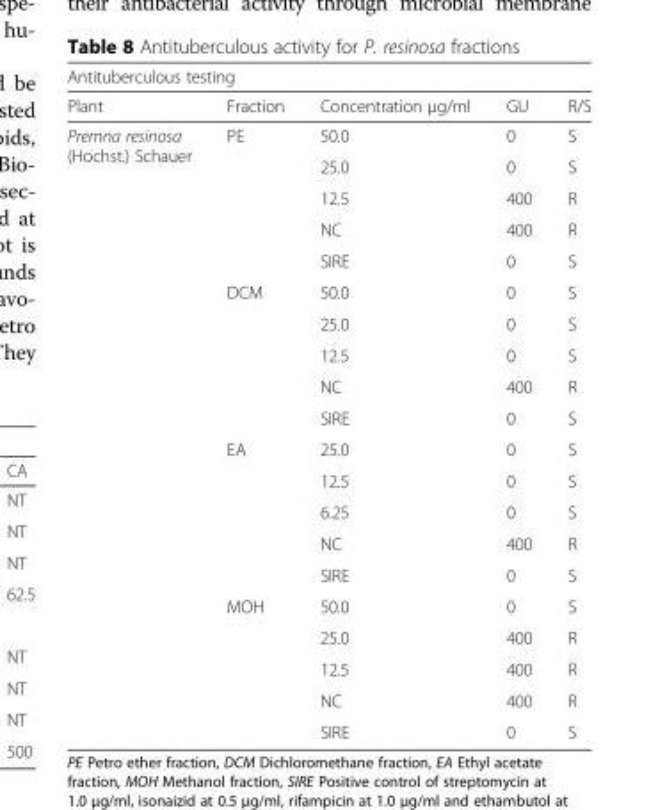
<table><thead><tr><td colspan="5">Antituberculous testing</td></tr><tr><td>Plant</td><td>Fraction</td><td>Concentration μg/ml</td><td>GU</td><td>R/S</td></tr></thead><tbody><tr><td rowspan="20">Premna resinosa (Hochst.) Schauer</td><td>PE</td><td>50.0</td><td>0</td><td>S</td></tr><tr><td></td><td>25.0</td><td>0</td><td>S</td></tr><tr><td></td><td>12.5</td><td>400</td><td>R</td></tr><tr><td></td><td>NC</td><td>400</td><td>R</td></tr><tr><td></td><td>SIRE</td><td>0</td><td>S</td></tr><tr><td>DCM</td><td>50.0</td><td>0</td><td>S</td></tr><tr><td></td><td>25.0</td><td>0</td><td>S</td></tr><tr><td></td><td>12.5</td><td>0</td><td>S</td></tr><tr><td></td><td>NC</td><td>400</td><td>R</td></tr><tr><td></td><td>SIRE</td><td>0</td><td>S</td></tr><tr><td>EA</td><td>25.0</td><td>0</td><td>S</td></tr><tr><td></td><td>12.5</td><td>0</td><td>S</td></tr><tr><td></td><td>6.25</td><td>0</td><td>S</td></tr><tr><td></td><td>NC</td><td>400</td><td>R</td></tr><tr><td></td><td>SIRE</td><td>0</td><td>S</td></tr><tr><td>MOH</td><td>50.0</td><td>0</td><td>S</td></tr><tr><td></td><td>25.0</td><td>400</td><td>R</td></tr><tr><td></td><td>12.5</td><td>400</td><td>R</td></tr><tr><td></td><td>NC</td><td>400</td><td>R</td></tr><tr><td></td><td>SIRE</td><td>0</td><td>S</td></tr></tbody></table>